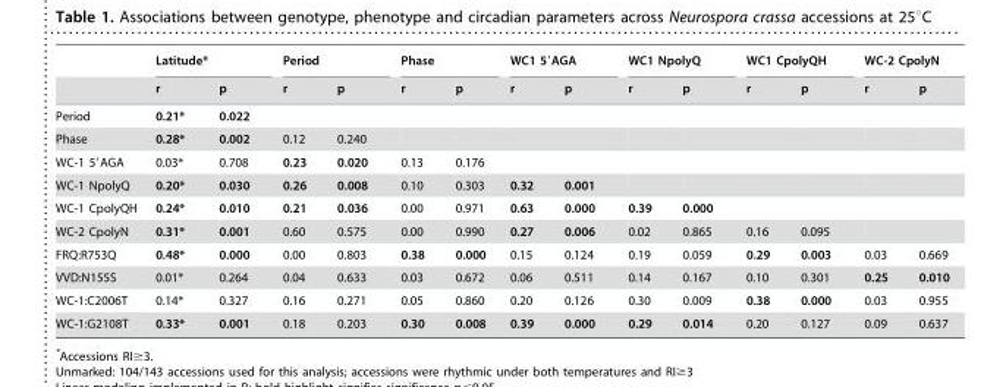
<table><thead><tr><td rowspan="2"></td><td colspan="2">Latitude*</td><td colspan="2">Period</td><td colspan="2">Phase</td><td colspan="2">WC1 5′AGA</td><td colspan="2">WC1 NpolyQ</td><td colspan="2">WC1 CpolyQH</td><td colspan="2">WC-2 CpolyN</td></tr><tr><td>r</td><td>p</td><td>r</td><td>p</td><td>r</td><td>p</td><td>r</td><td>p</td><td>r</td><td>p</td><td>r</td><td>p</td><td>r</td><td>p</td></tr></thead><tbody><tr><td>Period</td><td>0.21*</td><td>0.022</td><td></td><td></td><td></td><td></td><td></td><td></td><td></td><td></td><td></td><td></td><td></td><td></td></tr><tr><td>Phase</td><td>0.28*</td><td>0.002</td><td>0.12</td><td>0.240</td><td></td><td></td><td></td><td></td><td></td><td></td><td></td><td></td><td></td><td></td></tr><tr><td>WC-1 5′AGA</td><td>0.03*</td><td>0.708</td><td>0.23</td><td>0.020</td><td>0.13</td><td>0.176</td><td></td><td></td><td></td><td></td><td></td><td></td><td></td><td></td></tr><tr><td>WC-1 NpolyQ</td><td>0.20*</td><td>0.030</td><td>0.26</td><td>0.008</td><td>0.10</td><td>0.303</td><td>0.32</td><td>0.001</td><td></td><td></td><td></td><td></td><td></td><td></td></tr><tr><td>WC-1 CpolyQH</td><td>0.24*</td><td>0.010</td><td>0.21</td><td>0.036</td><td>0.00</td><td>0.971</td><td>0.63</td><td>0.000</td><td>0.39</td><td>0.000</td><td></td><td></td><td></td><td></td></tr><tr><td>WC-2 CpolyN</td><td>0.31*</td><td>0.001</td><td>0.60</td><td>0.575</td><td>0.00</td><td>0.990</td><td>0.27</td><td>0.006</td><td>0.02</td><td>0.865</td><td>0.16</td><td>0.095</td><td></td><td></td></tr><tr><td>FRQ:R753Q</td><td>0.48*</td><td>0.000</td><td>0.00</td><td>0.803</td><td>0.38</td><td>0.000</td><td>0.15</td><td>0.124</td><td>0.19</td><td>0.059</td><td>0.29</td><td>0.003</td><td>0.03</td><td>0.669</td></tr><tr><td>VVD:N155S</td><td>0.01*</td><td>0.264</td><td>0.04</td><td>0.633</td><td>0.03</td><td>0.672</td><td>0.06</td><td>0.511</td><td>0.14</td><td>0.167</td><td>0.10</td><td>0.301</td><td>0.25</td><td>0.010</td></tr><tr><td>WC-1:C2006T</td><td>0.14*</td><td>0.327</td><td>0.16</td><td>0.271</td><td>0.05</td><td>0.860</td><td>0.20</td><td>0.126</td><td>0.30</td><td>0.009</td><td>0.38</td><td>0.000</td><td>0.03</td><td>0.955</td></tr><tr><td>WC-1:G2108T</td><td>0.33*</td><td>0.001</td><td>0.18</td><td>0.203</td><td>0.30</td><td>0.008</td><td>0.39</td><td>0.000</td><td>0.29</td><td>0.014</td><td>0.20</td><td>0.127</td><td>0.09</td><td>0.637</td></tr></tbody></table>